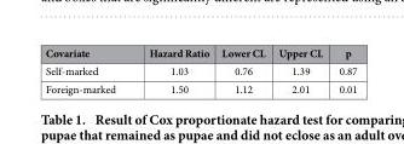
<table><thead><tr><td>Covariate</td><td>Hazard Ratio</td><td>Lower CL</td><td>Upper CL</td><td>p</td></tr></thead><tbody><tr><td>Self-marked</td><td>1.03</td><td>0.76</td><td>1.39</td><td>0.87</td></tr><tr><td>Foreign-marked</td><td>1.50</td><td>1.12</td><td>2.01</td><td>0.01</td></tr></tbody></table>